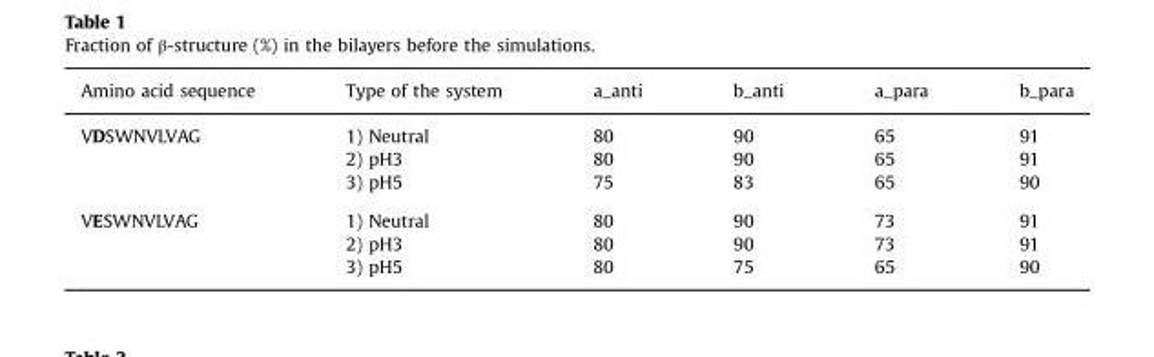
<table><thead><tr><td>Amino acid sequence</td><td>Type of the system</td><td>a_anti</td><td>b_anti</td><td>a_para</td><td>b_para</td></tr></thead><tbody><tr><td rowspan="3">VDSWNVLVAG</td><td>1) Neutral</td><td>80</td><td>90</td><td>65</td><td>91</td></tr><tr><td>2) pH3</td><td>80</td><td>90</td><td>65</td><td>91</td></tr><tr><td>3) pH5</td><td>75</td><td>83</td><td>65</td><td>90</td></tr><tr><td rowspan="3">VESWNVLVAG</td><td>1) Neutral</td><td>80</td><td>90</td><td>73</td><td>91</td></tr><tr><td>2) pH3</td><td>80</td><td>90</td><td>73</td><td>91</td></tr><tr><td>3) pH5</td><td>80</td><td>75</td><td>65</td><td>90</td></tr></tbody></table>